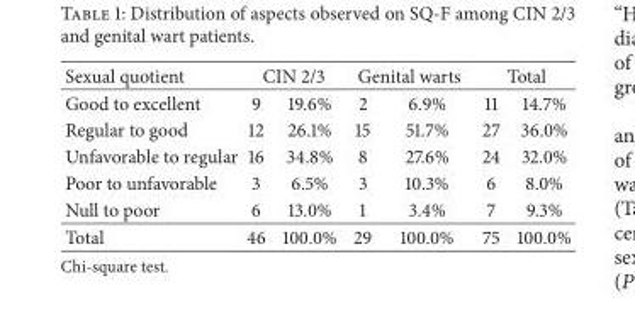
<table><thead><tr><td rowspan="2">Sexual quotient Good to excellent</td><td colspan="2">CIN 2/3</td><td colspan="2">Genital warts</td><td colspan="2">Total</td></tr><tr><td>9</td><td>19.6%</td><td>2</td><td>6.9%</td><td>11</td><td>14.7%</td></tr></thead><tbody><tr><td>Regular to good</td><td>12</td><td>26.1%</td><td>15</td><td>51.7%</td><td>27</td><td>36.0%</td></tr><tr><td>Unfavorable to regular</td><td>16</td><td>34.8%</td><td>8</td><td>27.6%</td><td>24</td><td>32.0%</td></tr><tr><td>Poor to unfavorable</td><td>3</td><td>6.5%</td><td>3</td><td>10.3%</td><td>6</td><td>8.0%</td></tr><tr><td>Null to poor</td><td>6</td><td>13.0%</td><td>1</td><td>3.4%</td><td>7</td><td>9.3%</td></tr><tr><td>Total</td><td>46</td><td>100.0%</td><td>29</td><td>100.0%</td><td>75</td><td>100.0%</td></tr></tbody></table>